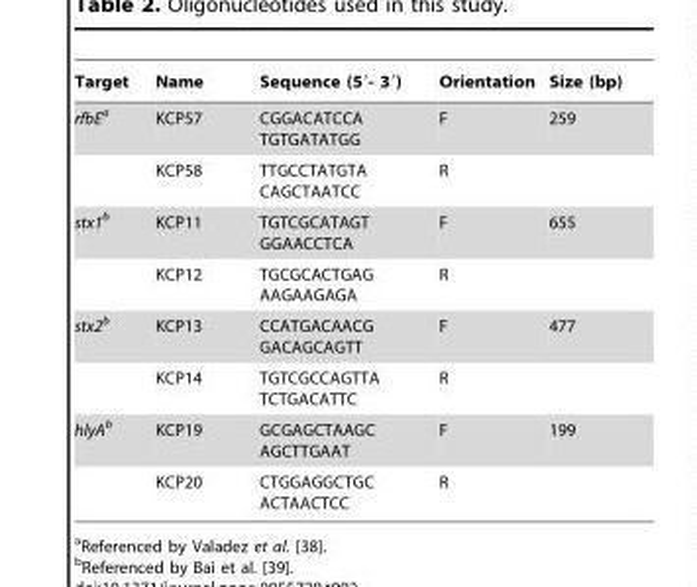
<table><thead><tr><td>Target</td><td>Name</td><td>Sequence (5′- 3′)</td><td>Orientation</td><td>Size (bp)</td></tr></thead><tbody><tr><td rowspan="2">rfbEa</td><td>KCP57</td><td>CGGACATCCA TGTGATATGG</td><td>F</td><td>259</td></tr><tr><td>KCP58</td><td>TTGCCTATGTA CAGCTAATCC</td><td>R</td><td></td></tr><tr><td rowspan="2">stx1b</td><td>KCP11</td><td>TGTCGCATAGT GGAACCTCA</td><td>F</td><td>655</td></tr><tr><td>KCP12</td><td>TGCGCACTGAG AAGAAGAGA</td><td>R</td><td></td></tr><tr><td rowspan="2">stx2b</td><td>KCP13</td><td>CCATGACAACG GACAGCAGTT</td><td>F</td><td>477</td></tr><tr><td>KCP14</td><td>TGTCGCCAGTTA TCTGACATTC</td><td>R</td><td></td></tr><tr><td rowspan="2">hlyAb</td><td>KCP19</td><td>GCGAGCTAAGC AGCTTGAAT</td><td>F</td><td>199</td></tr><tr><td>KCP20</td><td>CTGGAGGCTGC ACTAACTCC</td><td>R</td><td></td></tr></tbody></table>